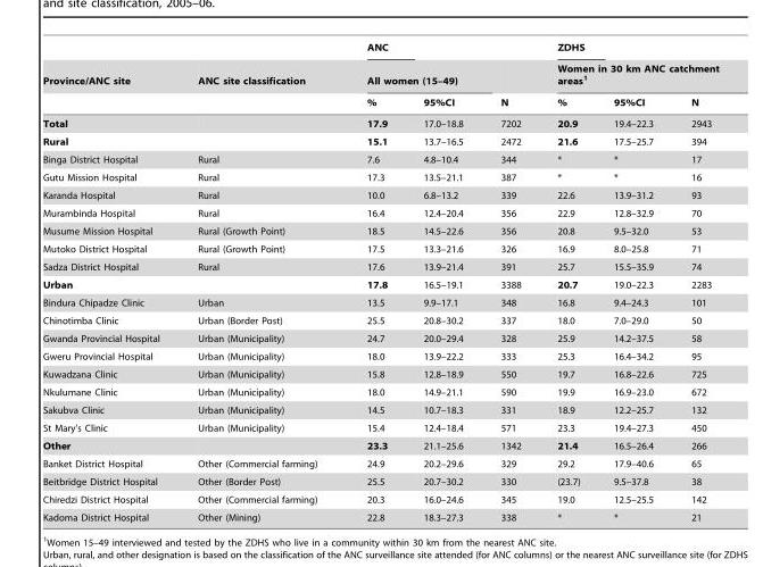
<table><thead><tr><td rowspan="3">Province/ANC site</td><td rowspan="3">ANC site classification</td><td>ANC</td><td></td><td rowspan="3">N</td><td>ZDHS</td><td></td><td></td></tr><tr><td colspan="2">All women (15–49)</td><td colspan="3">Women in 30 km ANC catchment areas<sup>1</sup></td></tr><tr><td>%</td><td>95%CI</td><td>%</td><td>95%CI</td><td>N</td></tr></thead><tbody><tr><td>Total</td><td></td><td>17.9</td><td>17.0–18.8</td><td>7202</td><td>20.9</td><td>19.4–22.3</td><td>2943</td></tr><tr><td>Rural</td><td></td><td>15.1</td><td>13.7–16.5</td><td>2472</td><td>21.6</td><td>17.5–25.7</td><td>394</td></tr><tr><td>Binga District Hospital</td><td>Rural</td><td>7.6</td><td>4.8–10.4</td><td>344</td><td>*</td><td>*</td><td>17</td></tr><tr><td>Gutu Mission Hospital</td><td>Rural</td><td>17.3</td><td>13.5–21.1</td><td>387</td><td>*</td><td>*</td><td>16</td></tr><tr><td>Karanda Hospital</td><td>Rural</td><td>10.0</td><td>6.8–13.2</td><td>339</td><td>22.6</td><td>13.9–31.2</td><td>93</td></tr><tr><td>Murambinda Hospital</td><td>Rural</td><td>16.4</td><td>12.4–20.4</td><td>356</td><td>22.9</td><td>12.8–32.9</td><td>70</td></tr><tr><td>Musume Mission Hospital</td><td>Rural (Growth Point)</td><td>18.5</td><td>14.5–22.6</td><td>356</td><td>20.8</td><td>9.5–32.0</td><td>53</td></tr><tr><td>Mutoko District Hospital</td><td>Rural (Growth Point)</td><td>17.5</td><td>13.3–21.6</td><td>326</td><td>16.9</td><td>8.0–25.8</td><td>71</td></tr><tr><td>Sadza District Hospital</td><td>Rural</td><td>17.6</td><td>13.9–21.4</td><td>391</td><td>25.7</td><td>15.5–35.9</td><td>74</td></tr><tr><td>Urban</td><td></td><td>17.8</td><td>16.5–19.1</td><td>3388</td><td>20.7</td><td>19.0–22.3</td><td>2283</td></tr><tr><td>Bindura Chipadze Clinic</td><td>Urban</td><td>13.5</td><td>9.9–17.1</td><td>348</td><td>16.8</td><td>9.4–24.3</td><td>101</td></tr><tr><td>Chinotimba Clinic</td><td>Urban (Border Post)</td><td>25.5</td><td>20.8–30.2</td><td>337</td><td>18.0</td><td>7.0–29.0</td><td>50</td></tr><tr><td>Gwanda Provincial Hospital</td><td>Urban (Municipality)</td><td>24.7</td><td>20.0–29.4</td><td>328</td><td>25.9</td><td>14.2–37.5</td><td>58</td></tr><tr><td>Gweru Provincial Hospital</td><td>Urban (Municipality)</td><td>18.0</td><td>13.9–22.2</td><td>333</td><td>25.3</td><td>16.4–34.2</td><td>95</td></tr><tr><td>Kuwadzana Clinic</td><td>Urban (Municipality)</td><td>15.8</td><td>12.8–18.9</td><td>550</td><td>19.7</td><td>16.8–22.6</td><td>725</td></tr><tr><td>Nkulumane Clinic</td><td>Urban (Municipality)</td><td>18.0</td><td>14.9–21.1</td><td>590</td><td>19.9</td><td>16.9–23.0</td><td>672</td></tr><tr><td>Sakubva Clinic</td><td>Urban (Municipality)</td><td>14.5</td><td>10.7–18.3</td><td>331</td><td>18.9</td><td>12.2–25.7</td><td>132</td></tr><tr><td>St Mary’s Clinic</td><td>Urban (Municipality)</td><td>15.4</td><td>12.4–18.4</td><td>571</td><td>23.3</td><td>19.4–27.3</td><td>450</td></tr><tr><td>Other</td><td></td><td>23.3</td><td>21.1–25.6</td><td>1342</td><td>21.4</td><td>16.5–26.4</td><td>266</td></tr><tr><td>Banket District Hospital</td><td>Other (Commercial farming)</td><td>24.9</td><td>20.2–29.6</td><td>329</td><td>29.2</td><td>17.9–40.6</td><td>65</td></tr><tr><td>Beitbridge District Hospital</td><td>Other (Border Post)</td><td>25.5</td><td>20.7–30.2</td><td>330</td><td>(23.7)</td><td>9.5–37.8</td><td>38</td></tr><tr><td>Chiredzi District Hospital</td><td>Other (Commercial farming)</td><td>20.3</td><td>16.0–24.6</td><td>345</td><td>19.0</td><td>12.5–25.5</td><td>142</td></tr><tr><td>Kadoma District Hospital</td><td>Other (Mining)</td><td>22.8</td><td>18.3–27.3</td><td>338</td><td>*</td><td>*</td><td>21</td></tr></tbody></table>